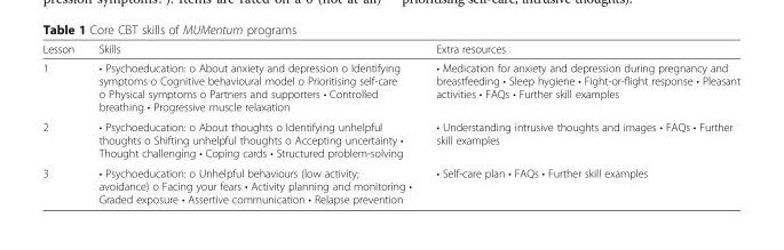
<table><thead><tr><td>Lesson</td><td>Skills</td><td>Extra resources</td></tr></thead><tbody><tr><td>1</td><td>• Psychoeducation: o About anxiety and depression o Identifying symptoms o Cognitive behavioural model o Prioritising self-care o Physical symptoms o Partners and supporters • Controlled breathing • Progressive muscle relaxation</td><td>• Medication for anxiety and depression during pregnancy and breastfeeding • Sleep hygiene • Fight-or-flight response • Pleasant activities • FAQs • Further skill examples</td></tr><tr><td>2</td><td>• Psychoeducation: o About thoughts o Identifying unhelpful thoughts o Shifting unhelpful thoughts o Accepting uncertainty • Thought challenging • Coping cards • Structured problem-solving</td><td>• Understanding intrusive thoughts and images • FAQs • Further skill examples</td></tr><tr><td>3</td><td>• Psychoeducation: o Unhelpful behaviours (low activity; avoidance) o Facing your fears • Activity planning and monitoring • Graded exposure • Assertive communication • Relapse prevention</td><td>• Self-care plan • FAQs • Further skill examples</td></tr></tbody></table>